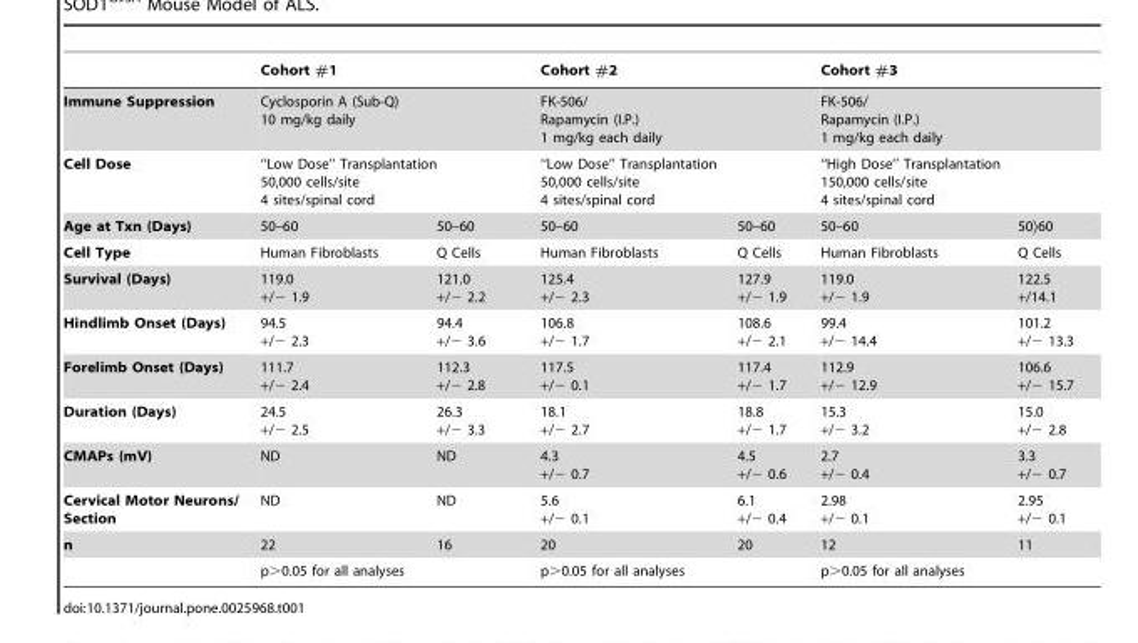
<table><thead><tr><td rowspan="4">Immune Suppression Cell Dose Age at Txn (Days)</td><td rowspan="3" colspan="2">Cohort #1 Cyclosporin A (Sub-Q) 10 mg/kg daily ‘‘Low Dose’’ Transplantation 50,000 cells/site 4 sites/spinal cord</td><td rowspan="3" colspan="2">Cohort #2 FK-506/ Rapamycin (I.P.) 1 mg/kg each daily ‘‘Low Dose’’ Transplantation 50,000 cells/site 4 sites/spinal cord</td><td rowspan="3" colspan="2">Cohort #3 FK-506/ Rapamycin (I.P.) 1 mg/kg each daily ‘‘High Dose’’ Transplantation 150,000 cells/site 4 sites/spinal cord</td></tr><tr></tr><tr></tr><tr><td>50–60</td><td>50–60</td><td>50–60</td><td>50–60</td><td>50–60</td><td>50æ60</td></tr></thead><tbody><tr><td>Cell Type</td><td>Human Fibroblasts</td><td>Q Cells</td><td>Human Fibroblasts</td><td>Q Cells</td><td>Human Fibroblasts</td><td>Q Cells</td></tr><tr><td>Survival (Days)</td><td>119.0 +/− 1.9</td><td>121.0 +/− 2.2</td><td>125.4 +/− 2.3</td><td>127.9 +/− 1.9</td><td>119.0 +/− 1.9</td><td>122.5 +/14.1</td></tr><tr><td>Hindlimb Onset (Days)</td><td>94.5 +/− 2.3</td><td>94.4 +/− 3.6</td><td>106.8 +/− 1.7</td><td>108.6 +/− 2.1</td><td>99.4 +/− 14.4</td><td>101.2 +/− 13.3</td></tr><tr><td>Forelimb Onset (Days)</td><td>111.7 +/− 2.4</td><td>112.3 +/− 2.8</td><td>117.5 +/− 0.1</td><td>117.4 +/− 1.7</td><td>112.9 +/− 12.9</td><td>106.6 +/− 15.7</td></tr><tr><td>Duration (Days)</td><td>24.5 +/− 2.5</td><td>26.3 +/− 3.3</td><td>18.1 +/− 2.7</td><td>18.8 +/− 1.7</td><td>15.3 +/− 3.2</td><td>15.0 +/− 2.8</td></tr><tr><td>CMAPs (mV)</td><td>ND</td><td>ND</td><td>4.3 +/− 0.7</td><td>4.5 +/− 0.6</td><td>2.7 +/− 0.4</td><td>3.3 +/− 0.7</td></tr><tr><td>Cervical Motor Neurons/ Section</td><td>ND</td><td>ND</td><td>5.6 +/− 0.1</td><td>6.1 +/− 0.4</td><td>2.98 +/− 0.1</td><td>2.95 +/− 0.1</td></tr><tr><td rowspan="2">n</td><td>22</td><td>16</td><td>20</td><td>20</td><td>12</td><td>11</td></tr><tr><td colspan="2">p&gt;0.05 for all analyses</td><td colspan="2">p&gt;0.05 for all analyses</td><td colspan="2">p&gt;0.05 for all analyses</td></tr></tbody></table>